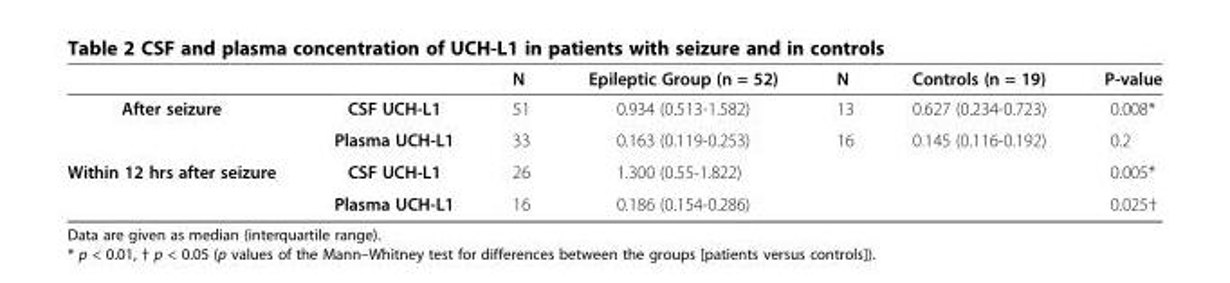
<table><thead><tr><td></td><td></td><td>N</td><td>Epileptic Group (n = 52)</td><td>N</td><td>Controls (n = 19)</td><td>P-value</td></tr></thead><tbody><tr><td rowspan="2">After seizure</td><td>CSF UCH-L1</td><td>51</td><td>0.934 (0.513-1.582)</td><td>13</td><td>0.627 (0.234-0.723)</td><td>0.008*</td></tr><tr><td>Plasma UCH-L1</td><td>33</td><td>0.163 (0.119-0.253)</td><td>16</td><td>0.145 (0.116-0.192)</td><td>0.2</td></tr><tr><td rowspan="2">Within 12 hrs after seizure</td><td>CSF UCH-L1</td><td>26</td><td>1.300 (0.55-1.822)</td><td></td><td></td><td>0.005*</td></tr><tr><td>Plasma UCH-L1</td><td>16</td><td>0.186 (0.154-0.286)</td><td></td><td></td><td>0.025†</td></tr></tbody></table>